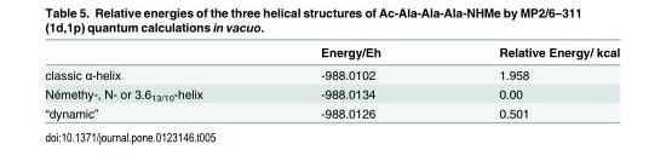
<table><thead><tr><td></td><td>Energy/Eh</td><td>Relative Energy/ kcal</td></tr></thead><tbody><tr><td>classic α-helix</td><td>-988.0102</td><td>1.958</td></tr><tr><td>Némethy-, N- or 3.6<sub>13/10</sub>-helix</td><td>-988.0134</td><td>0.00</td></tr><tr><td>“dynamic”</td><td>-988.0126</td><td>0.501</td></tr></tbody></table>